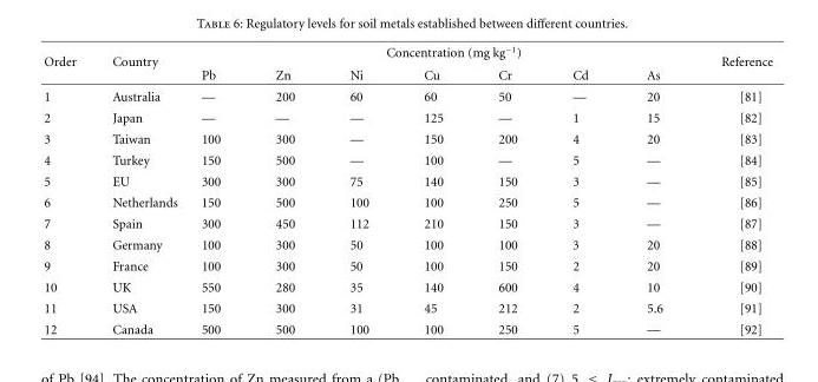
<table><thead><tr><td rowspan="2">Order</td><td rowspan="2">Country</td><td colspan="7">Concentration (mg kg<sup>−1</sup>)</td><td rowspan="2">Reference</td></tr><tr><td>Pb</td><td>Zn</td><td>Ni</td><td>Cu</td><td>Cr</td><td>Cd</td><td>As</td></tr></thead><tbody><tr><td>1</td><td>Australia</td><td>—</td><td>200</td><td>60</td><td>60</td><td>50</td><td>—</td><td>20</td><td>[81]</td></tr><tr><td>2</td><td>Japan</td><td>—</td><td>—</td><td>—</td><td>125</td><td>—</td><td>1</td><td>15</td><td>[82]</td></tr><tr><td>3</td><td>Taiwan</td><td>100</td><td>300</td><td>—</td><td>150</td><td>200</td><td>4</td><td>20</td><td>[83]</td></tr><tr><td>4</td><td>Turkey</td><td>150</td><td>500</td><td>—</td><td>100</td><td>—</td><td>5</td><td>—</td><td>[84]</td></tr><tr><td>5</td><td>EU</td><td>300</td><td>300</td><td>75</td><td>140</td><td>150</td><td>3</td><td>—</td><td>[85]</td></tr><tr><td>6</td><td>Netherlands</td><td>150</td><td>500</td><td>100</td><td>100</td><td>250</td><td>5</td><td>—</td><td>[86]</td></tr><tr><td>7</td><td>Spain</td><td>300</td><td>450</td><td>112</td><td>210</td><td>150</td><td>3</td><td>—</td><td>[87]</td></tr><tr><td>8</td><td>Germany</td><td>100</td><td>300</td><td>50</td><td>100</td><td>100</td><td>3</td><td>20</td><td>[88]</td></tr><tr><td>9</td><td>France</td><td>100</td><td>300</td><td>50</td><td>100</td><td>150</td><td>2</td><td>20</td><td>[89]</td></tr><tr><td>10</td><td>UK</td><td>550</td><td>280</td><td>35</td><td>140</td><td>600</td><td>4</td><td>10</td><td>[90]</td></tr><tr><td>11</td><td>USA</td><td>150</td><td>300</td><td>31</td><td>45</td><td>212</td><td>2</td><td>5.6</td><td>[91]</td></tr><tr><td>12</td><td>Canada</td><td>500</td><td>500</td><td>100</td><td>100</td><td>250</td><td>5</td><td>—</td><td>[92]</td></tr></tbody></table>